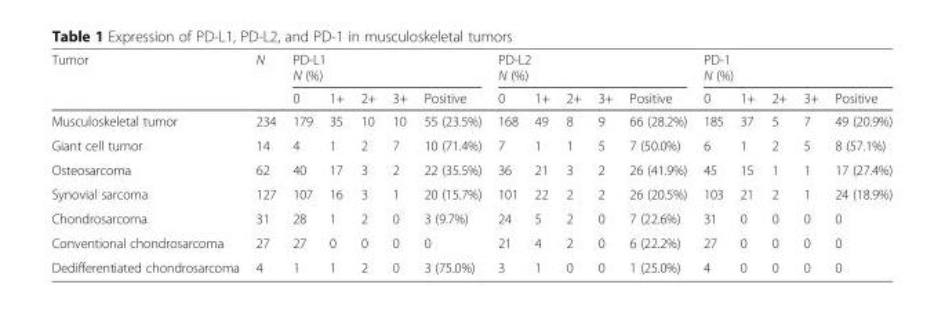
<table><thead><tr><td rowspan="2">Tumor</td><td rowspan="2">N</td><td colspan="5">PD-L1 N (%)</td><td colspan="5">PD-L2 N (%)</td><td colspan="5">PD-1 N (%)</td></tr><tr><td>0</td><td>1+</td><td>2+</td><td>3+</td><td>Positive</td><td>0</td><td>1+</td><td>2+</td><td>3+</td><td>Positive</td><td>0</td><td>1+</td><td>2+</td><td>3+</td><td>Positive</td></tr></thead><tbody><tr><td>Musculoskeletal tumor</td><td>234</td><td>179</td><td>35</td><td>10</td><td>10</td><td>55 (23.5%)</td><td>168</td><td>49</td><td>8</td><td>9</td><td>66 (28.2%)</td><td>185</td><td>37</td><td>5</td><td>7</td><td>49 (20.9%)</td></tr><tr><td>Giant cell tumor</td><td>14</td><td>4</td><td>1</td><td>2</td><td>7</td><td>10 (71.4%)</td><td>7</td><td>1</td><td>1</td><td>5</td><td>7 (50.0%)</td><td>6</td><td>1</td><td>2</td><td>5</td><td>8 (57.1%)</td></tr><tr><td>Osteosarcoma</td><td>62</td><td>40</td><td>17</td><td>3</td><td>2</td><td>22 (35.5%)</td><td>36</td><td>21</td><td>3</td><td>2</td><td>26 (41.9%)</td><td>45</td><td>15</td><td>1</td><td>1</td><td>17 (27.4%)</td></tr><tr><td>Synovial sarcoma</td><td>127</td><td>107</td><td>16</td><td>3</td><td>1</td><td>20 (15.7%)</td><td>101</td><td>22</td><td>2</td><td>2</td><td>26 (20.5%)</td><td>103</td><td>21</td><td>2</td><td>1</td><td>24 (18.9%)</td></tr><tr><td>Chondrosarcoma</td><td>31</td><td>28</td><td>1</td><td>2</td><td>0</td><td>3 (9.7%)</td><td>24</td><td>5</td><td>2</td><td>0</td><td>7 (22.6%)</td><td>31</td><td>0</td><td>0</td><td>0</td><td>0</td></tr><tr><td>Conventional chondrosarcoma</td><td>27</td><td>27</td><td>0</td><td>0</td><td>0</td><td>0</td><td>21</td><td>4</td><td>2</td><td>0</td><td>6 (22.2%)</td><td>27</td><td>0</td><td>0</td><td>0</td><td>0</td></tr><tr><td>Dedifferentiated chondrosarcoma</td><td>4</td><td>1</td><td>1</td><td>2</td><td>0</td><td>3 (75.0%)</td><td>3</td><td>1</td><td>0</td><td>0</td><td>1 (25.0%)</td><td>4</td><td>0</td><td>0</td><td>0</td><td>0</td></tr></tbody></table>